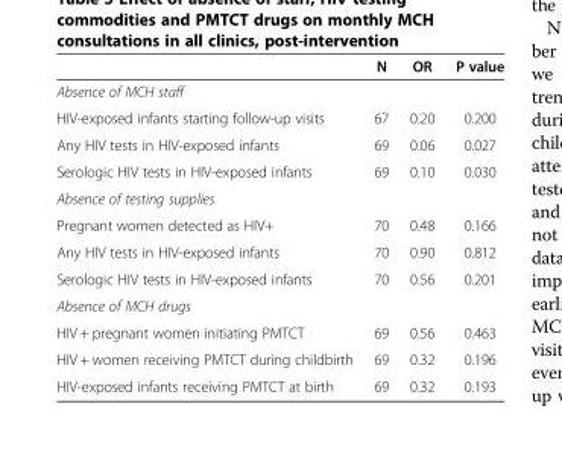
<table><thead><tr><td></td><td>N</td><td>OR</td><td>P value</td></tr></thead><tbody><tr><td colspan="4">Absence of MCH staff</td></tr><tr><td>HIV-exposed infants starting follow-up visits</td><td>67</td><td>0.20</td><td>0.200</td></tr><tr><td>Any HIV tests in HIV-exposed infants</td><td>69</td><td>0.06</td><td>0.027</td></tr><tr><td>Serologic HIV tests in HIV-exposed infants</td><td>69</td><td>0.10</td><td>0.030</td></tr><tr><td colspan="4">Absence of testing supplies</td></tr><tr><td>Pregnant women detected as HIV+</td><td>70</td><td>0.48</td><td>0.166</td></tr><tr><td>Any HIV tests in HIV-exposed infants</td><td>70</td><td>0.90</td><td>0.812</td></tr><tr><td>Serologic HIV tests in HIV-exposed infants</td><td>70</td><td>0.56</td><td>0.201</td></tr><tr><td colspan="4">Absence of MCH drugs</td></tr><tr><td>HIV + pregnant women initiating PMTCT</td><td>69</td><td>0.56</td><td>0.463</td></tr><tr><td>HIV + women receiving PMTCT during childbirth</td><td>69</td><td>0.32</td><td>0.196</td></tr><tr><td>HIV-exposed infants receiving PMTCT at birth</td><td>69</td><td>0.32</td><td>0.193</td></tr></tbody></table>